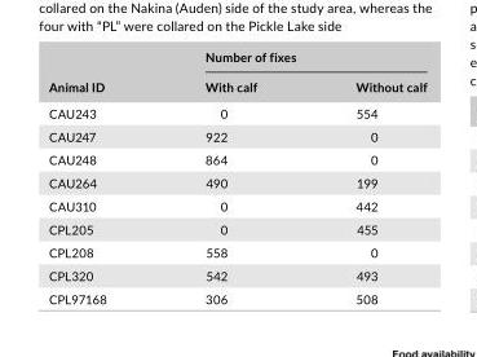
<table><thead><tr><td rowspan="2">Animal ID</td><td colspan="2">Number of fixes</td></tr><tr><td>With calf</td><td>Without calf</td></tr></thead><tbody><tr><td>CAU243</td><td>0</td><td>554</td></tr><tr><td>CAU247</td><td>922</td><td>0</td></tr><tr><td>CAU248</td><td>864</td><td>0</td></tr><tr><td>CAU264</td><td>490</td><td>199</td></tr><tr><td>CAU310</td><td>0</td><td>442</td></tr><tr><td>CPL205</td><td>0</td><td>455</td></tr><tr><td>CPL208</td><td>558</td><td>0</td></tr><tr><td>CPL320</td><td>542</td><td>493</td></tr><tr><td>CPL97168</td><td>306</td><td>508</td></tr></tbody></table>